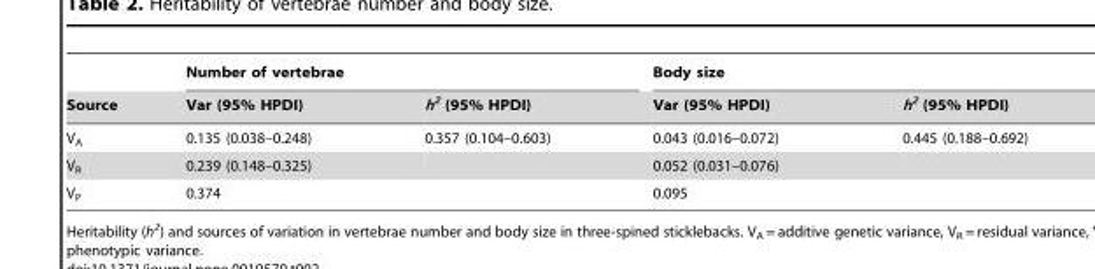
<table><thead><tr><td rowspan="2">Source</td><td colspan="2">Number of vertebrae</td><td colspan="2">Body size</td></tr><tr><td>Var (95% HPDI)</td><td>h<sup>2</sup> (95% HPDI)</td><td>Var (95% HPDI)</td><td>h<sup>2</sup> (95% HPDI)</td></tr></thead><tbody><tr><td>V<sub>A</sub></td><td>0.135 (0.038–0.248)</td><td>0.357 (0.104–0.603)</td><td>0.043 (0.016–0.072)</td><td>0.445 (0.188–0.692)</td></tr><tr><td>V<sub>R</sub></td><td>0.239 (0.148–0.325)</td><td></td><td>0.052 (0.031–0.076)</td><td></td></tr><tr><td>V<sub>P</sub></td><td>0.374</td><td></td><td>0.095</td><td></td></tr></tbody></table>